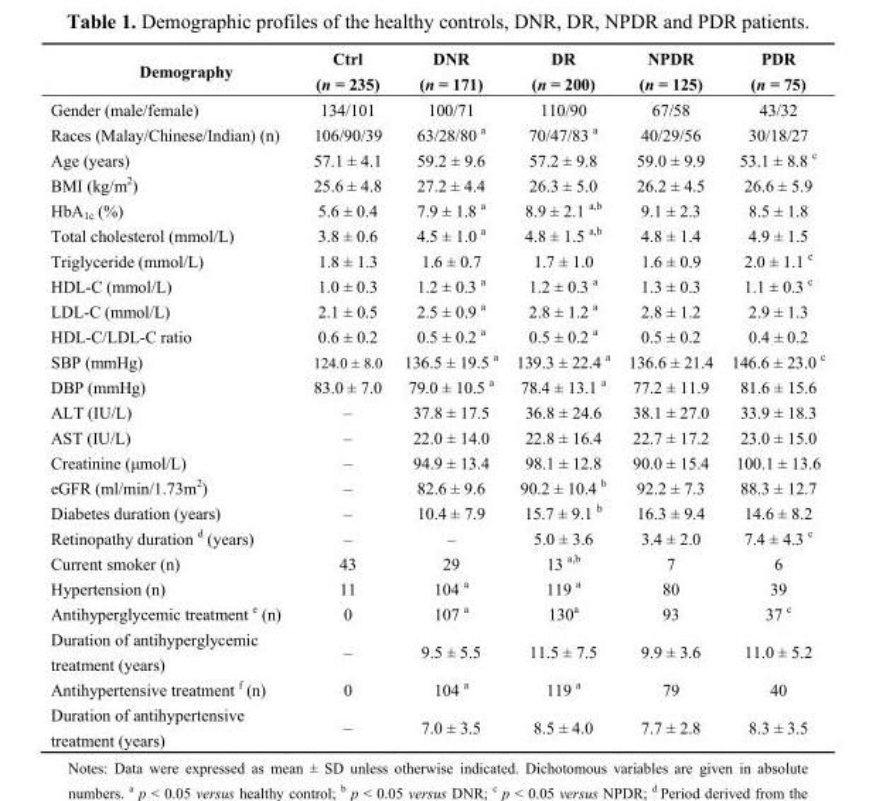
<table><thead><tr><td>Demography</td><td>Ctrl (n = 235)</td><td>DNR (n = 171)</td><td>DR (n = 200)</td><td>NPDR (n = 125)</td><td>PDR (n = 75)</td></tr></thead><tbody><tr><td>Gender (male/female)</td><td>134/101</td><td>100/71</td><td>110/90</td><td>67/58</td><td>43/32</td></tr><tr><td>Races (Malay/Chinese/Indian) (n)</td><td>106/90/39</td><td>63/28/80 a</td><td>70/47/83 a</td><td>40/29/56</td><td>30/18/27</td></tr><tr><td>Age (years)</td><td>57.1 ± 4.1</td><td>59.2 ± 9.6</td><td>57.2 ± 9.8</td><td>59.0 ± 9.9</td><td>53.1 ± 8.8 c</td></tr><tr><td>BMI (kg/m<sup>2</sup>)</td><td>25.6 ± 4.8</td><td>27.2 ± 4.4</td><td>26.3 ± 5.0</td><td>26.2 ± 4.5</td><td>26.6 ± 5.9</td></tr><tr><td>HbA<sub>1c</sub> (%)</td><td>5.6 ± 0.4</td><td>7.9 ± 1.8 a</td><td>8.9 ± 2.1 a,b</td><td>9.1 ± 2.3</td><td>8.5 ± 1.8</td></tr><tr><td>Total cholesterol (mmol/L)</td><td>3.8 ± 0.6</td><td>4.5 ± 1.0 a</td><td>4.8 ± 1.5 a,b</td><td>4.8 ± 1.4</td><td>4.9 ± 1.5</td></tr><tr><td>Triglyceride (mmol/L)</td><td>1.8 ± 1.3</td><td>1.6 ± 0.7</td><td>1.7 ± 1.0</td><td>1.6 ± 0.9</td><td>2.0 ± 1.1 c</td></tr><tr><td>HDL-C (mmol/L)</td><td>1.0 ± 0.3</td><td>1.2 ± 0.3 a</td><td>1.2 ± 0.3 a</td><td>1.3 ± 0.3</td><td>1.1 ± 0.3 c</td></tr><tr><td>LDL-C (mmol/L)</td><td>2.1 ± 0.5</td><td>2.5 ± 0.9 a</td><td>2.8 ± 1.2 a</td><td>2.8 ± 1.2</td><td>2.9 ± 1.3</td></tr><tr><td>HDL-C/LDL-C ratio</td><td>0.6 ± 0.2</td><td>0.5 ± 0.2 a</td><td>0.5 ± 0.2 a</td><td>0.5 ± 0.2</td><td>0.4 ± 0.2</td></tr><tr><td>SBP (mmHg)</td><td>124.0 ± 8.0</td><td>136.5 ± 19.5 a</td><td>139.3 ± 22.4 a</td><td>136.6 ± 21.4</td><td>146.6 ± 23.0 c</td></tr><tr><td>DBP (mmHg)</td><td>83.0 ± 7.0</td><td>79.0 ± 10.5 a</td><td>78.4 ± 13.1 a</td><td>77.2 ± 11.9</td><td>81.6 ± 15.6</td></tr><tr><td>ALT (IU/L)</td><td>–</td><td>37.8 ± 17.5</td><td>36.8 ± 24.6</td><td>38.1 ± 27.0</td><td>33.9 ± 18.3</td></tr><tr><td>AST (IU/L)</td><td>–</td><td>22.0 ± 14.0</td><td>22.8 ± 16.4</td><td>22.7 ± 17.2</td><td>23.0 ± 15.0</td></tr><tr><td>Creatinine (μmol/L)</td><td>–</td><td>94.9 ± 13.4</td><td>98.1 ± 12.8</td><td>90.0 ± 15.4</td><td>100.1 ± 13.6</td></tr><tr><td>eGFR (ml/min/1.73m<sup>2</sup>)</td><td>–</td><td>82.6 ± 9.6</td><td>90.2 ± 10.4 b</td><td>92.2 ± 7.3</td><td>88.3 ± 12.7</td></tr><tr><td>Diabetes duration (years)</td><td>–</td><td>10.4 ± 7.9</td><td>15.7 ± 9.1 b</td><td>16.3 ± 9.4</td><td>14.6 ± 8.2</td></tr><tr><td>Retinopathy duration d (years)</td><td>–</td><td>–</td><td>5.0 ± 3.6</td><td>3.4 ± 2.0</td><td>7.4 ± 4.3 c</td></tr><tr><td>Current smoker (n)</td><td>43</td><td>29</td><td>13 a,b</td><td>7</td><td>6</td></tr><tr><td>Hypertension (n)</td><td>11</td><td>104 a</td><td>119 a</td><td>80</td><td>39</td></tr><tr><td>Antihyperglycemic treatment e (n)</td><td>0</td><td>107 a</td><td>130<sup>a</sup></td><td>93</td><td>37 c</td></tr><tr><td>Duration of antihyperglycemic treatment (years)</td><td>–</td><td>9.5 ± 5.5</td><td>11.5 ± 7.5</td><td>9.9 ± 3.6</td><td>11.0 ± 5.2</td></tr><tr><td>Antihypertensive treatment f (n)</td><td>0</td><td>104 a</td><td>119 a</td><td>79</td><td>40</td></tr><tr><td>Duration of antihypertensive treatment (years)</td><td>–</td><td>7.0 ± 3.5</td><td>8.5 ± 4.0</td><td>7.7 ± 2.8</td><td>8.3 ± 3.5</td></tr></tbody></table>